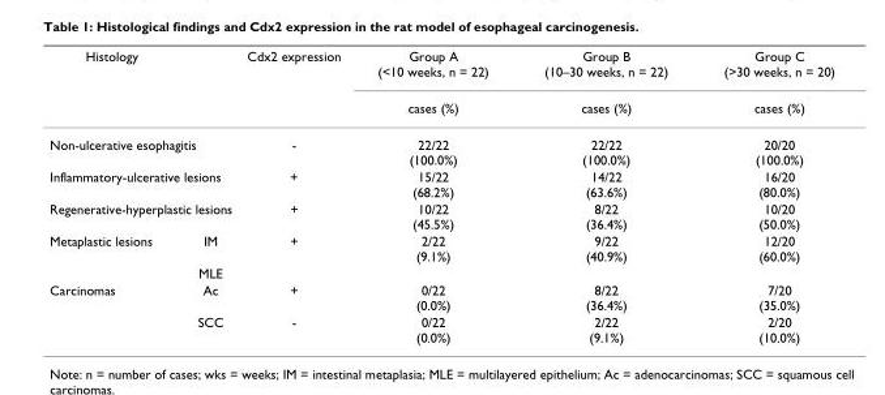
<table><thead><tr><td rowspan="2">Histology</td><td rowspan="2"></td><td rowspan="2">Cdx2 expression</td><td rowspan="2">Group A (&lt;10 weeks, n = 22) cases (%)</td><td rowspan="2">Group B (10–30 weeks, n = 22) cases (%)</td><td rowspan="2">Group C (&gt;30 weeks, n = 20) cases (%)</td></tr><tr></tr></thead><tbody><tr><td colspan="2">Non-ulcerative esophagitis</td><td>-</td><td>22/22 (100.0%)</td><td>22/22 (100.0%)</td><td>20/20 (100.0%)</td></tr><tr><td colspan="2">Inflammatory-ulcerative lesions</td><td>+</td><td>15/22 (68.2%)</td><td>14/22 (63.6%)</td><td>16/20 (80.0%)</td></tr><tr><td colspan="2">Regenerative-hyperplastic lesions</td><td>+</td><td>10/22 (45.5%)</td><td>8/22 (36.4%)</td><td>10/20 (50.0%)</td></tr><tr><td rowspan="2">Metaplastic lesions</td><td>IM</td><td>+</td><td>2/22 (9.1%)</td><td>9/22 (40.9%)</td><td>12/20 (60.0%)</td></tr><tr><td>MLE</td><td></td><td></td><td></td><td></td></tr><tr><td rowspan="2">Carcinomas</td><td>Ac</td><td>+</td><td>0/22 (0.0%)</td><td>8/22 (36.4%)</td><td>7/20 (35.0%)</td></tr><tr><td>SCC</td><td>-</td><td>0/22 (0.0%)</td><td>2/22 (9.1%)</td><td>2/20 (10.0%)</td></tr></tbody></table>